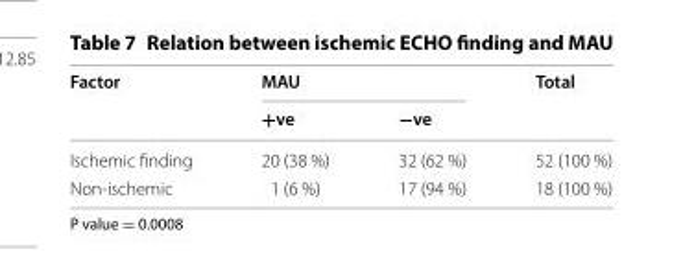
<table><thead><tr><td rowspan="2">Factor</td><td colspan="2">MAU</td><td rowspan="2">Total</td></tr><tr><td>+ve</td><td>−ve</td></tr></thead><tbody><tr><td>Ischemic finding</td><td>20 (38 %)</td><td>32 (62 %)</td><td>52 (100 %)</td></tr><tr><td>Non‑ischemic</td><td>1 (6 %)</td><td>17 (94 %)</td><td>18 (100 %)</td></tr></tbody></table>